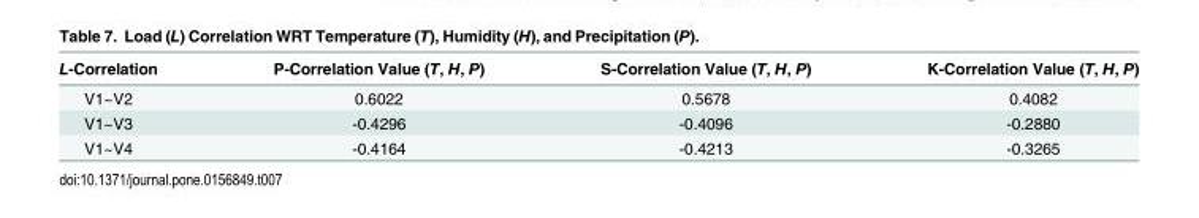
<table><thead><tr><td>L-Correlation</td><td>P-Correlation Value (T, H, P)</td><td>S-Correlation Value (T, H, P)</td><td>K-Correlation Value (T, H, P)</td></tr></thead><tbody><tr><td>V1~V2</td><td>0.6022</td><td>0.5678</td><td>0.4082</td></tr><tr><td>V1~V3</td><td>-0.4296</td><td>-0.4096</td><td>-0.2880</td></tr><tr><td>V1~V4</td><td>-0.4164</td><td>-0.4213</td><td>-0.3265</td></tr></tbody></table>